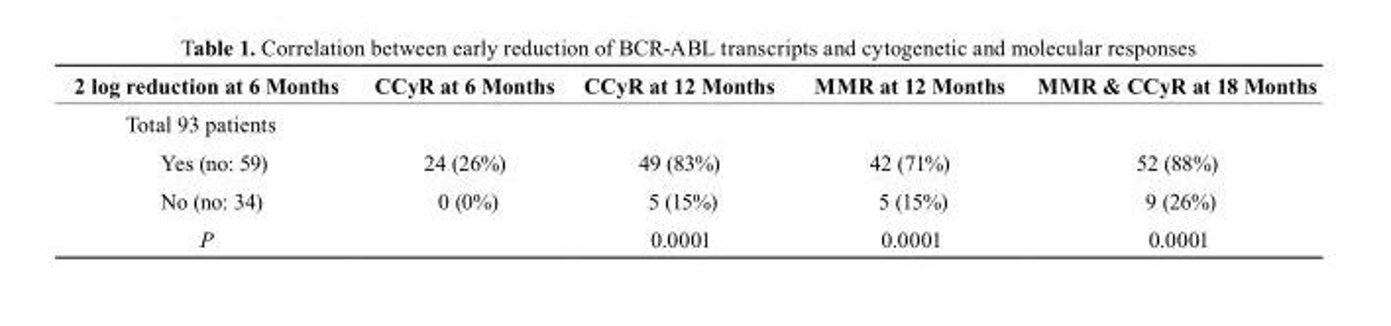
<table><thead><tr><td>2 log reduction at 6 Months</td><td>CCyR at 6 Months</td><td>CCyR at 12 Months</td><td>MMR at 12 Months</td><td>MMR &amp; CCyR at 18 Months</td></tr></thead><tbody><tr><td colspan="5">Total 93 patients</td></tr><tr><td>Yes (no: 59)</td><td>24 (26%)</td><td>49 (83%)</td><td>42 (71%)</td><td>52 (88%)</td></tr><tr><td>No (no: 34)</td><td>0 (0%)</td><td>5 (15%)</td><td>5 (15%)</td><td>9 (26%)</td></tr><tr><td>P</td><td></td><td>0.0001</td><td>0.0001</td><td>0.0001</td></tr></tbody></table>